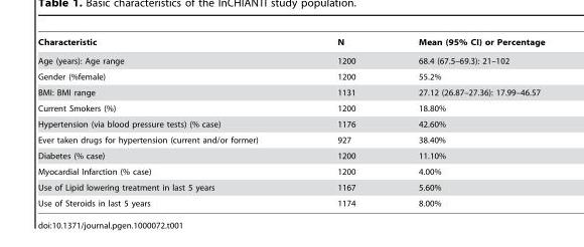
<table><thead><tr><td>Characteristic</td><td>N</td><td>Mean (95% CI) or Percentage</td></tr></thead><tbody><tr><td>Age (years): Age range</td><td>1200</td><td>68.4 (67.5–69.3): 21–102</td></tr><tr><td>Gender (%female)</td><td>1200</td><td>55.2%</td></tr><tr><td>BMI: BMI range</td><td>1131</td><td>27.12 (26.87–27.36): 17.99–46.57</td></tr><tr><td>Current Smokers (%)</td><td>1200</td><td>18.80%</td></tr><tr><td>Hypertension (via blood pressure tests) (% case)</td><td>1176</td><td>42.60%</td></tr><tr><td>Ever taken drugs for hypertension (current and/or former)</td><td>927</td><td>38.40%</td></tr><tr><td>Diabetes (% case)</td><td>1200</td><td>11.10%</td></tr><tr><td>Myocardial Infarction (% case)</td><td>1200</td><td>4.00%</td></tr><tr><td>Use of Lipid lowering treatment in last 5 years</td><td>1167</td><td>5.60%</td></tr><tr><td>Use of Steroids in last 5 years</td><td>1174</td><td>8.00%</td></tr></tbody></table>